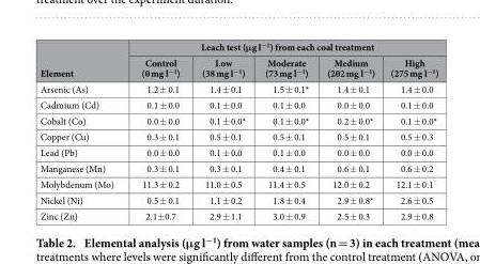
<table><thead><tr><td rowspan="2">Element</td><td colspan="5">Leach test (μg l<sup>−1</sup>) from each coal treatment</td></tr><tr><td>Control (0 mg l<sup>−1</sup>)</td><td>Low (38 mg l<sup>−1</sup>)</td><td>Moderate (73 mg l<sup>−1</sup>)</td><td>Medium (202 mg l<sup>−1</sup>)</td><td>High (275 mg l<sup>−1</sup>)</td></tr></thead><tbody><tr><td>Arsenic (As)</td><td>1.2 ± 0.1</td><td>1.4 ± 0.1</td><td>1.5 ± 0.1*</td><td>1.4 ± 0.1</td><td>1.4 ± 0.0</td></tr><tr><td>Cadmium (Cd)</td><td>0.1 ± 0.0</td><td>0.1 ± 0.0</td><td>0.1 ± 0.0</td><td>0.0 ± 0.0</td><td>0.1 ± 0.0</td></tr><tr><td>Cobalt (Co)</td><td>0.0 ± 0.0</td><td>0.1 ± 0.0*</td><td>0.1 ± 0.0*</td><td>0.2 ± 0.0*</td><td>0.1 ± 0.0*</td></tr><tr><td>Copper (Cu)</td><td>0.3 ± 0.1</td><td>0.5 ± 0.1</td><td>0.5 ± 0.1</td><td>0.5 ± 0.1</td><td>0.5 ± 0.3</td></tr><tr><td>Lead (Pb)</td><td>0.0 ± 0.0</td><td>0.1 ± 0.0</td><td>0.1 ± 0.0</td><td>0.0 ± 0.0</td><td>0.0 ± 0.0</td></tr><tr><td>Manganese (Mn)</td><td>0.3 ± 0.1</td><td>0.3 ± 0.1</td><td>0.4 ± 0.1</td><td>0.6 ± 0.1</td><td>0.6 ± 0.2</td></tr><tr><td>Molybdenum (Mo)</td><td>11.3 ± 0.2</td><td>11.0 ± 0.5</td><td>11.4 ± 0.5</td><td>12.0 ± 0.2</td><td>12.1 ± 0.1</td></tr><tr><td>Nickel (Ni)</td><td>0.5 ± 0.1</td><td>1.1 ± 0.2</td><td>1.8 ± 0.4</td><td>2.9 ± 0.8*</td><td>2.6 ± 0.5</td></tr><tr><td>Zinc (Zn)</td><td>2.1± 0.7</td><td>2.9 ± 1.1</td><td>3.0 ± 0.9</td><td>2.5 ± 0.3</td><td>2.9 ± 0.8</td></tr></tbody></table>